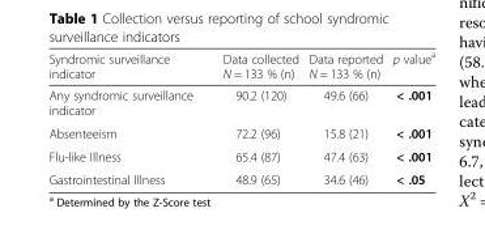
<table><thead><tr><td>Syndromic surveillance indicator</td><td>Data collected N = 133 % (n)</td><td>Data reported N = 133 % (n)</td><td>p value<sup>a</sup></td></tr></thead><tbody><tr><td>Any syndromic surveillance indicator</td><td>90.2 (120)</td><td>49.6 (66)</td><td>&lt; .001</td></tr><tr><td>Absenteeism</td><td>72.2 (96)</td><td>15.8 (21)</td><td>&lt; .001</td></tr><tr><td>Flu-like Illness</td><td>65.4 (87)</td><td>47.4 (63)</td><td>&lt; .001</td></tr><tr><td>Gastrointestinal Illness</td><td>48.9 (65)</td><td>34.6 (46)</td><td>&lt; .05</td></tr></tbody></table>